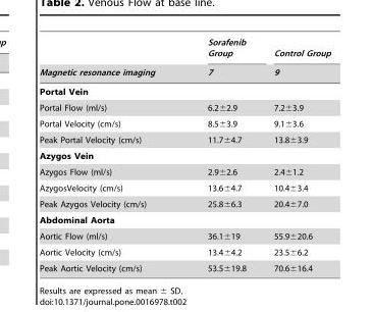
<table><thead><tr><td rowspan="2">Magnetic resonance imaging</td><td rowspan="2">Sorafenib Group 7</td><td rowspan="2">Control Group 9</td></tr><tr></tr></thead><tbody><tr><td colspan="3">Portal Vein</td></tr><tr><td>Portal Flow (ml/s)</td><td>6.2±2.9</td><td>7.2±3.9</td></tr><tr><td>Portal Velocity (cm/s)</td><td>8.5±3.9</td><td>9.1±3.6</td></tr><tr><td>Peak Portal Velocity (cm/s)</td><td>11.7±4.7</td><td>13.8±3.9</td></tr><tr><td colspan="3">Azygos Vein</td></tr><tr><td>Azygos Flow (ml/s)</td><td>2.9±2.6</td><td>2.4±1.2</td></tr><tr><td>AzygosVelocity (cm/s)</td><td>13.6±4.7</td><td>10.4±3.4</td></tr><tr><td>Peak Azygos Velocity (cm/s)</td><td>25.8±6.3</td><td>20.4±7.0</td></tr><tr><td colspan="3">Abdominal Aorta</td></tr><tr><td>Aortic Flow (ml/s)</td><td>36.1±19</td><td>55.9±20.6</td></tr><tr><td>Aortic Velocity (cm/s)</td><td>13.4±4.2</td><td>23.5±6.2</td></tr><tr><td>Peak Aortic Velocity (cm/s)</td><td>53.5±19.8</td><td>70.6±16.4</td></tr></tbody></table>